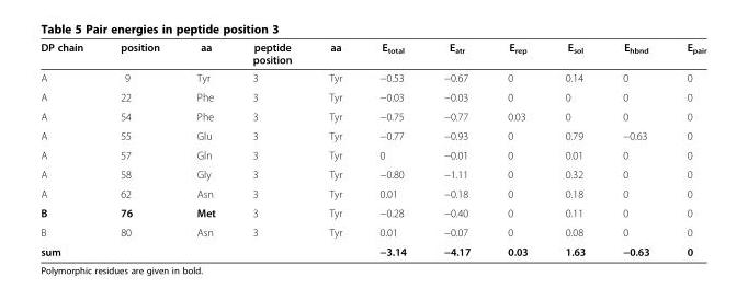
<table><thead><tr><td>DP chain</td><td>position</td><td>aa</td><td>peptide position</td><td>aa</td><td>E<sub>total</sub></td><td>E<sub>atr</sub></td><td>E<sub>rep</sub></td><td>E<sub>sol</sub></td><td>E<sub>hbnd</sub></td><td>E<sub>pair</sub></td></tr></thead><tbody><tr><td>A</td><td>9</td><td>Tyr</td><td>3</td><td>Tyr</td><td>−0.53</td><td>−0.67</td><td>0</td><td>0.14</td><td>0</td><td>0</td></tr><tr><td>A</td><td>22</td><td>Phe</td><td>3</td><td>Tyr</td><td>−0.03</td><td>−0.03</td><td>0</td><td>0</td><td>0</td><td>0</td></tr><tr><td>A</td><td>54</td><td>Phe</td><td>3</td><td>Tyr</td><td>−0.75</td><td>−0.77</td><td>0.03</td><td>0</td><td>0</td><td>0</td></tr><tr><td>A</td><td>55</td><td>Glu</td><td>3</td><td>Tyr</td><td>−0.77</td><td>−0.93</td><td>0</td><td>0.79</td><td>−0.63</td><td>0</td></tr><tr><td>A</td><td>57</td><td>Gln</td><td>3</td><td>Tyr</td><td>0</td><td>−0.01</td><td>0</td><td>0.01</td><td>0</td><td>0</td></tr><tr><td>A</td><td>58</td><td>Gly</td><td>3</td><td>Tyr</td><td>−0.80</td><td>−1.11</td><td>0</td><td>0.32</td><td>0</td><td>0</td></tr><tr><td>A</td><td>62</td><td>Asn</td><td>3</td><td>Tyr</td><td>0.01</td><td>−0.18</td><td>0</td><td>0.18</td><td>0</td><td>0</td></tr><tr><td>B</td><td>76</td><td>Met</td><td>3</td><td>Tyr</td><td>−0.28</td><td>−0.40</td><td>0</td><td>0.11</td><td>0</td><td>0</td></tr><tr><td>B</td><td>80</td><td>Asn</td><td>3</td><td>Tyr</td><td>0.01</td><td>−0.07</td><td>0</td><td>0.08</td><td>0</td><td>0</td></tr><tr><td>sum</td><td></td><td></td><td></td><td></td><td>−3.14</td><td>−4.17</td><td>0.03</td><td>1.63</td><td>−0.63</td><td>0</td></tr></tbody></table>